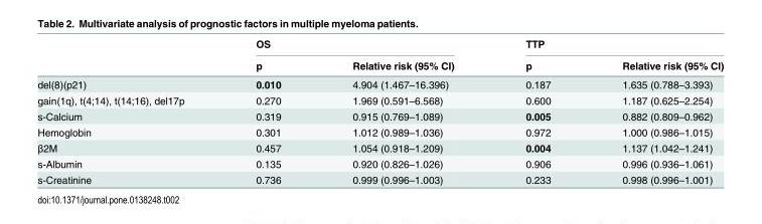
<table><thead><tr><td rowspan="2"></td><td colspan="2">OS</td><td colspan="2">TTP</td></tr><tr><td>p</td><td>Relative risk (95% CI)</td><td>p</td><td>Relative risk (95% CI)</td></tr></thead><tbody><tr><td>del(8)(p21)</td><td>0.010</td><td>4.904 (1.467–16.396)</td><td>0.187</td><td>1.635 (0.788–3.393)</td></tr><tr><td>gain(1q), t(4;14), t(14;16), del17p</td><td>0.270</td><td>1.969 (0.591–6.568)</td><td>0.600</td><td>1.187 (0.625–2.254)</td></tr><tr><td>s-Calcium</td><td>0.319</td><td>0.915 (0.769–1.089)</td><td>0.005</td><td>0.882 (0.809–0.962)</td></tr><tr><td>Hemoglobin</td><td>0.301</td><td>1.012 (0.989–1.036)</td><td>0.972</td><td>1.000 (0.986–1.015)</td></tr><tr><td>β2M</td><td>0.457</td><td>1.054 (0.918–1.209)</td><td>0.004</td><td>1.137 (1.042–1.241)</td></tr><tr><td>s-Albumin</td><td>0.135</td><td>0.920 (0.826–1.026)</td><td>0.906</td><td>0.996 (0.936–1.061)</td></tr><tr><td>s-Creatinine</td><td>0.736</td><td>0.999 (0.996–1.003)</td><td>0.233</td><td>0.998 (0.996–1.001)</td></tr></tbody></table>